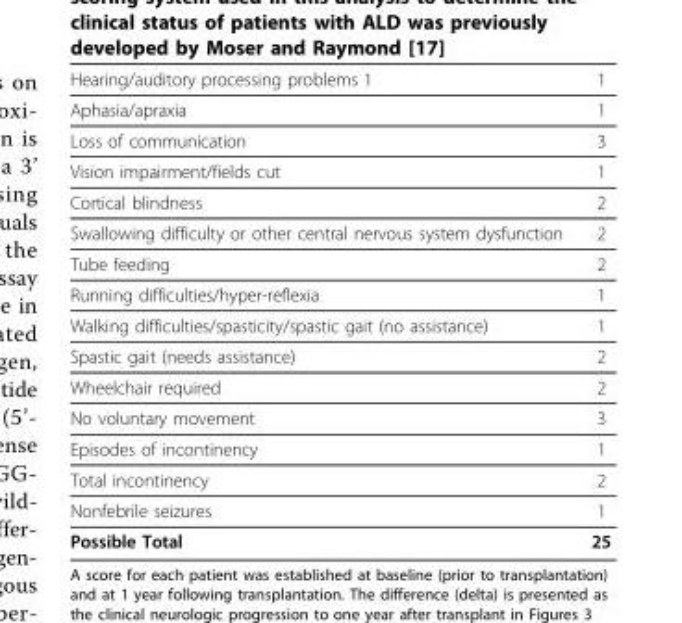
<table><thead><tr><td>Hearing/auditory processing problems 1</td><td>1</td></tr></thead><tbody><tr><td>Aphasia/apraxia</td><td>1</td></tr><tr><td>Loss of communication</td><td>3</td></tr><tr><td>Vision impairment/fields cut</td><td>1</td></tr><tr><td>Cortical blindness</td><td>2</td></tr><tr><td>Swallowing difficulty or other central nervous system dysfunction</td><td>2</td></tr><tr><td>Tube feeding</td><td>2</td></tr><tr><td>Running difficulties/hyper-reflexia</td><td>1</td></tr><tr><td>Walking difficulties/spasticity/spastic gait (no assistance)</td><td>1</td></tr><tr><td>Spastic gait (needs assistance)</td><td>2</td></tr><tr><td>Wheelchair required</td><td>2</td></tr><tr><td>No voluntary movement</td><td>3</td></tr><tr><td>Episodes of incontinency</td><td>1</td></tr><tr><td>Total incontinency</td><td>2</td></tr><tr><td>Nonfebrile seizures</td><td>1</td></tr><tr><td>Possible Total</td><td>25</td></tr></tbody></table>